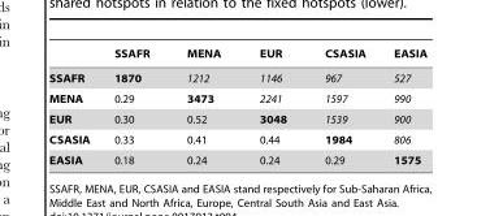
<table><thead><tr><td></td><td>SSAFR</td><td>MENA</td><td>EUR</td><td>CSASIA</td><td>EASIA</td></tr></thead><tbody><tr><td>SSAFR</td><td>1870</td><td>1212</td><td>1146</td><td>967</td><td>527</td></tr><tr><td>MENA</td><td>0.29</td><td>3473</td><td>2241</td><td>1597</td><td>990</td></tr><tr><td>EUR</td><td>0.30</td><td>0.52</td><td>3048</td><td>1539</td><td>900</td></tr><tr><td>CSASIA</td><td>0.33</td><td>0.41</td><td>0.44</td><td>1984</td><td>806</td></tr><tr><td>EASIA</td><td>0.18</td><td>0.24</td><td>0.24</td><td>0.29</td><td>1575</td></tr></tbody></table>